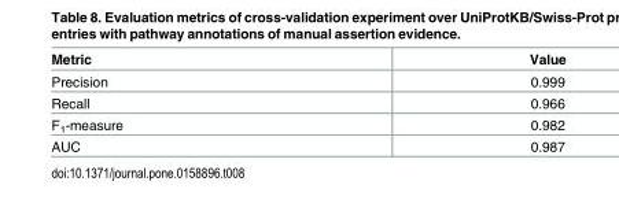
<table><thead><tr><td>Metric</td><td>Value</td></tr></thead><tbody><tr><td>Precision</td><td>0.999</td></tr><tr><td>Recall</td><td>0.966</td></tr><tr><td>F<sub>1</sub>-measure</td><td>0.982</td></tr><tr><td>AUC</td><td>0.987</td></tr></tbody></table>